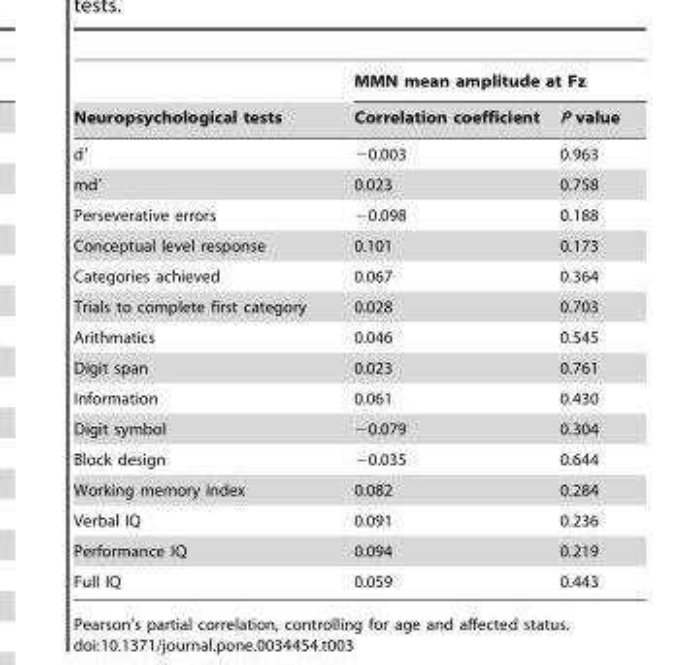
<table><thead><tr><td rowspan="2">Neuropsychological tests</td><td colspan="2">MMN mean amplitude at Fz</td></tr><tr><td>Correlation coefficient</td><td>P value</td></tr></thead><tbody><tr><td>d′</td><td>−0.003</td><td>0.963</td></tr><tr><td>md′</td><td>0.023</td><td>0.758</td></tr><tr><td>Perseverative errors</td><td>−0.098</td><td>0.188</td></tr><tr><td>Conceptual level response</td><td>0.101</td><td>0.173</td></tr><tr><td>Categories achieved</td><td>0.067</td><td>0.364</td></tr><tr><td>Trials to complete first category</td><td>0.028</td><td>0.703</td></tr><tr><td>Arithmatics</td><td>0.046</td><td>0.545</td></tr><tr><td>Digit span</td><td>0.023</td><td>0.761</td></tr><tr><td>Information</td><td>0.061</td><td>0.430</td></tr><tr><td>Digit symbol</td><td>−0.079</td><td>0.304</td></tr><tr><td>Block design</td><td>−0.035</td><td>0.644</td></tr><tr><td>Working memory index</td><td>0.082</td><td>0.284</td></tr><tr><td>Verbal IQ</td><td>0.091</td><td>0.236</td></tr><tr><td>Performance IQ</td><td>0.094</td><td>0.219</td></tr><tr><td>Full IQ</td><td>0.059</td><td>0.443</td></tr></tbody></table>